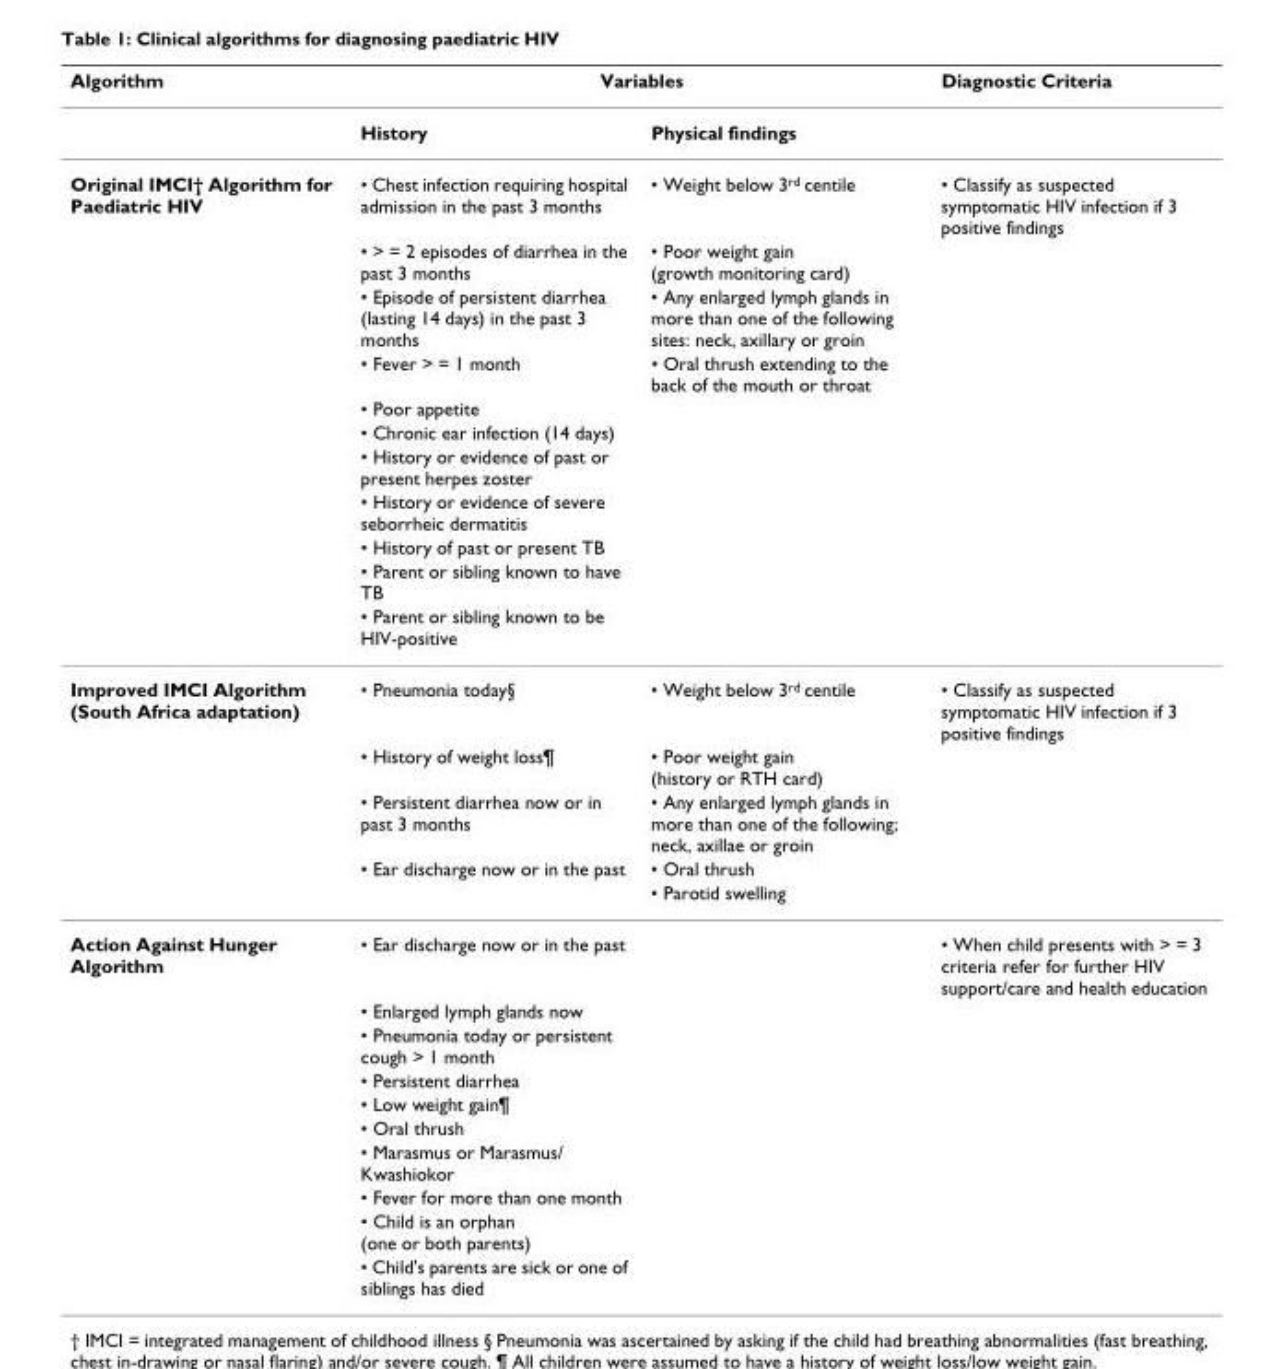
<table><thead><tr><td rowspan="2">Algorithm</td><td colspan="2">Variables</td><td rowspan="2">Diagnostic Criteria</td></tr><tr><td>History</td><td>Physical findings</td></tr></thead><tbody><tr><td rowspan="11">Original IMCI† Algorithm for Paediatric HIV</td><td>• Chest infection requiring hospital admission in the past 3 months</td><td>• Weight below 3<sup>rd</sup> centile</td><td>• Classify as suspected symptomatic HIV infection if 3 positive findings</td></tr><tr><td>• &gt; = 2 episodes of diarrhea in the past 3 months</td><td>• Poor weight gain (growth monitoring card)</td><td></td></tr><tr><td>• Episode of persistent diarrhea (lasting 14 days) in the past 3 months</td><td>• Any enlarged lymph glands in more than one of the following sites: neck, axillary or groin</td><td></td></tr><tr><td>• Fever &gt; = 1 month</td><td>• Oral thrush extending to the back of the mouth or throat</td><td></td></tr><tr><td>• Poor appetite</td><td></td><td></td></tr><tr><td>• Chronic ear infection (14 days)</td><td></td><td></td></tr><tr><td>• History or evidence of past or present herpes zoster</td><td></td><td></td></tr><tr><td>• History or evidence of severe seborrheic dermatitis</td><td></td><td></td></tr><tr><td>• History of past or present TB</td><td></td><td></td></tr><tr><td>• Parent or sibling known to have TB</td><td></td><td></td></tr><tr><td>• Parent or sibling known to be HIV-positive</td><td></td><td></td></tr><tr><td rowspan="5">Improved IMCI Algorithm (South Africa adaptation)</td><td>• Pneumonia today§</td><td>• Weight below 3<sup>rd</sup> centile</td><td>• Classify as suspected symptomatic HIV infection if 3 positive findings</td></tr><tr><td>• History of weight loss¶</td><td>• Poor weight gain (history or RTH card)</td><td></td></tr><tr><td>• Persistent diarrhea now or in past 3 months</td><td>• Any enlarged lymph glands in more than one of the following; neck, axillae or groin</td><td></td></tr><tr><td>• Ear discharge now or in the past</td><td>• Oral thrush</td><td></td></tr><tr><td></td><td>• Parotid swelling</td><td></td></tr><tr><td rowspan="10">Action Against Hunger Algorithm</td><td>• Ear discharge now or in the past</td><td></td><td>• When child presents with &gt; = 3 criteria refer for further HIV support/care and health education</td></tr><tr><td>• Enlarged lymph glands now</td><td></td><td></td></tr><tr><td>• Pneumonia today or persistent cough &gt; 1 month</td><td></td><td></td></tr><tr><td>• Persistent diarrhea</td><td></td><td></td></tr><tr><td>• Low weight gain¶</td><td></td><td></td></tr><tr><td>• Oral thrush</td><td></td><td></td></tr><tr><td>• Marasmus or Marasmus/ Kwashiokor</td><td></td><td></td></tr><tr><td>• Fever for more than one month</td><td></td><td></td></tr><tr><td>• Child is an orphan (one or both parents)</td><td></td><td></td></tr><tr><td>• Child&#x27;s parents are sick or one of siblings has died</td><td></td><td></td></tr></tbody></table>